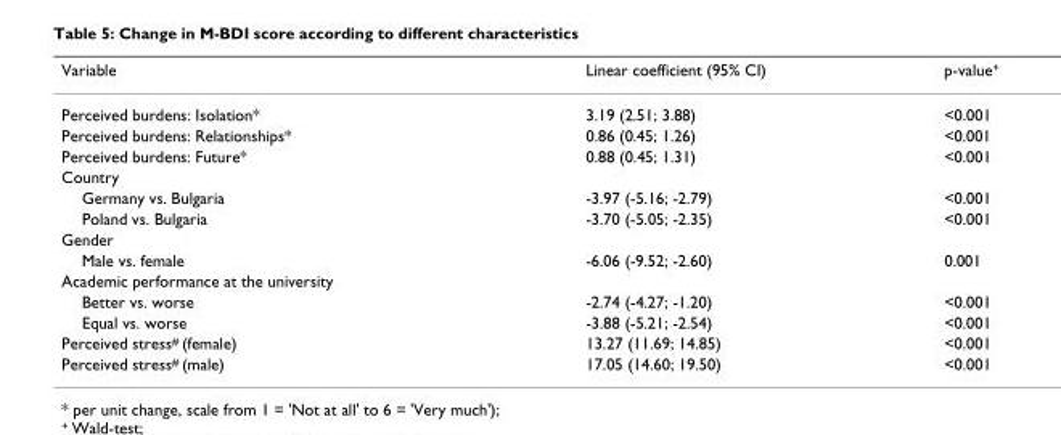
<table><thead><tr><td>Variable</td><td>Linear coefficient (95% CI)</td><td>p-value<sup>+</sup></td></tr></thead><tbody><tr><td>Perceived burdens: Isolation*</td><td>3.19 (2.51; 3.88)</td><td>&lt;0.001</td></tr><tr><td>Perceived burdens: Relationships*</td><td>0.86 (0.45; 1.26)</td><td>&lt;0.001</td></tr><tr><td>Perceived burdens: Future*</td><td>0.88 (0.45; 1.31)</td><td>&lt;0.001</td></tr><tr><td colspan="3">Country</td></tr><tr><td>Germany vs. Bulgaria</td><td>-3.97 (-5.16; -2.79)</td><td>&lt;0.001</td></tr><tr><td>Poland vs. Bulgaria</td><td>-3.70 (-5.05; -2.35)</td><td>&lt;0.001</td></tr><tr><td colspan="3">Gender</td></tr><tr><td>Male vs. female</td><td>-6.06 (-9.52; -2.60)</td><td>0.001</td></tr><tr><td colspan="3">Academic performance at the university</td></tr><tr><td>Better vs. worse</td><td>-2.74 (-4.27; -1.20)</td><td>&lt;0.001</td></tr><tr><td>Equal vs. worse</td><td>-3.88 (-5.21; -2.54)</td><td>&lt;0.001</td></tr><tr><td>Perceived stress<sup>#</sup> (female)</td><td>13.27 (11.69; 14.85)</td><td>&lt;0.001</td></tr><tr><td>Perceived stress<sup>#</sup> (male)</td><td>17.05 (14.60; 19.50)</td><td>&lt;0.001</td></tr></tbody></table>